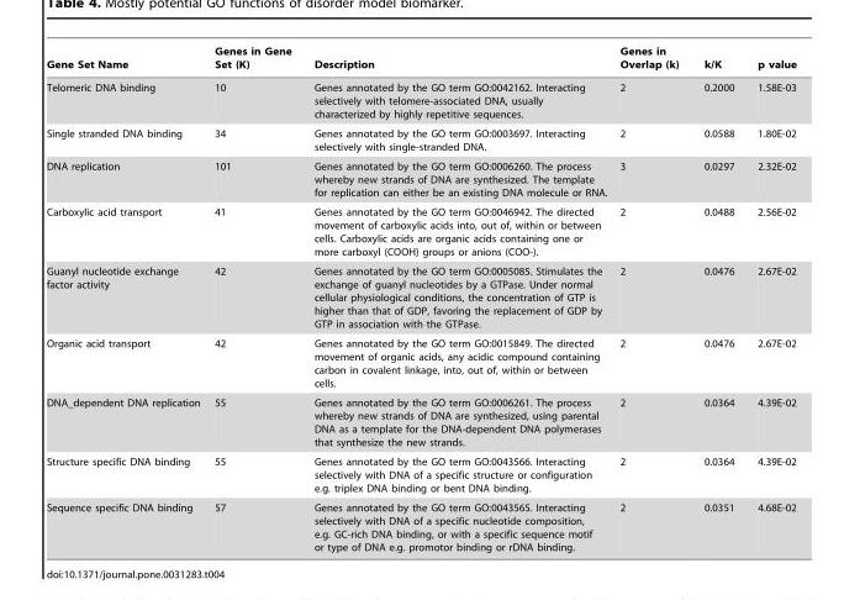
<table><thead><tr><td>Gene Set Name</td><td>Genes in Gene Set (K)</td><td>Description</td><td>Genes in Overlap (k)</td><td>k/K</td><td>p value</td></tr></thead><tbody><tr><td>Telomeric DNA binding</td><td>10</td><td>Genes annotated by the GO term GO:0042162. Interacting selectively with telomere-associated DNA, usually characterized by highly repetitive sequences.</td><td>2</td><td>0.2000</td><td>1.58E-03</td></tr><tr><td>Single stranded DNA binding</td><td>34</td><td>Genes annotated by the GO term GO:0003697. Interacting selectively with single-stranded DNA.</td><td>2</td><td>0.0588</td><td>1.80E-02</td></tr><tr><td>DNA replication</td><td>101</td><td>Genes annotated by the GO term GO:0006260. The process whereby new strands of DNA are synthesized. The template for replication can either be an existing DNA molecule or RNA.</td><td>3</td><td>0.0297</td><td>2.32E-02</td></tr><tr><td>Carboxylic acid transport</td><td>41</td><td>Genes annotated by the GO term GO:0046942. The directed movement of carboxylic acids into, out of, within or between cells. Carboxylic acids are organic acids containing one or more carboxyl (COOH) groups or anions (COO-).</td><td>2</td><td>0.0488</td><td>2.56E-02</td></tr><tr><td>Guanyl nucleotide exchange factor activity</td><td>42</td><td>Genes annotated by the GO term GO:0005085. Stimulates the exchange of guanyl nucleotides by a GTPase. Under normal cellular physiological conditions, the concentration of GTP is higher than that of GDP, favoring the replacement of GDP by GTP in association with the GTPase.</td><td>2</td><td>0.0476</td><td>2.67E-02</td></tr><tr><td>Organic acid transport</td><td>42</td><td>Genes annotated by the GO term GO:0015849. The directed movement of organic acids, any acidic compound containing carbon in covalent linkage, into, out of, within or between cells.</td><td>2</td><td>0.0476</td><td>2.67E-02</td></tr><tr><td>DNA_dependent DNA replication</td><td>55</td><td>Genes annotated by the GO term GO:0006261. The process whereby new strands of DNA are synthesized, using parental DNA as a template for the DNA-dependent DNA polymerases that synthesize the new strands.</td><td>2</td><td>0.0364</td><td>4.39E-02</td></tr><tr><td>Structure specific DNA binding</td><td>55</td><td>Genes annotated by the GO term GO:0043566. Interacting selectively with DNA of a specific structure or configuration e.g. triplex DNA binding or bent DNA binding.</td><td>2</td><td>0.0364</td><td>4.39E-02</td></tr><tr><td>Sequence specific DNA binding</td><td>57</td><td>Genes annotated by the GO term GO:0043565. Interacting selectively with DNA of a specific nucleotide composition, e.g. GC-rich DNA binding, or with a specific sequence motif or type of DNA e.g. promotor binding or rDNA binding.</td><td>2</td><td>0.0351</td><td>4.68E-02</td></tr></tbody></table>